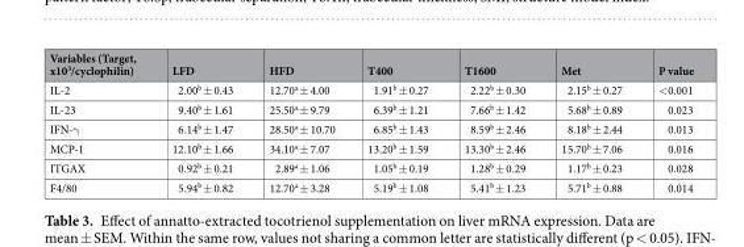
<table><thead><tr><td>Variables (Target, x10<sup>3</sup>/cyclophilin)</td><td>LFD</td><td>HFD</td><td>T400</td><td>T1600</td><td>Met</td><td>P value</td></tr></thead><tbody><tr><td>IL-2</td><td>2.00<sup>b</sup> ± 0.43</td><td>12.70<sup>a</sup> ± 4.00</td><td>1.91<sup>b</sup> ± 0.27</td><td>2.22<sup>b</sup> ± 0.30</td><td>2.15<sup>b</sup> ± 0.27</td><td>&lt;0.001</td></tr><tr><td>IL-23</td><td>9.40<sup>b</sup> ± 1.61</td><td>25.50<sup>a</sup> ± 9.79</td><td>6.39<sup>b</sup> ± 1.21</td><td>7.66<sup>b</sup> ± 1.42</td><td>5.68<sup>b</sup> ± 0.89</td><td>0.023</td></tr><tr><td>IFN-γ</td><td>6.14<sup>b</sup> ± 1.47</td><td>28.50<sup>a</sup> ± 10.70</td><td>6.85<sup>b</sup> ± 1.43</td><td>8.59<sup>b</sup> ± 2.46</td><td>8.18<sup>b</sup> ± 2.44</td><td>0.013</td></tr><tr><td>MCP-1</td><td>12.10<sup>b</sup> ± 1.66</td><td>34.10<sup>a</sup> ± 7.07</td><td>13.20<sup>b</sup> ± 1.59</td><td>13.30<sup>b</sup> ± 2.46</td><td>15.70<sup>b</sup> ± 7.06</td><td>0.016</td></tr><tr><td>ITGAX</td><td>0.92<sup>b</sup> ± 0.21</td><td>2.89<sup>a</sup> ± 1.06</td><td>1.05<sup>b</sup> ± 0.19</td><td>1.28<sup>b</sup> ± 0.29</td><td>1.17<sup>b</sup> ± 0.23</td><td>0.028</td></tr><tr><td>F4/80</td><td>5.94<sup>b</sup> ± 0.82</td><td>12.70<sup>a</sup> ± 3.28</td><td>5.19<sup>b</sup> ± 1.08</td><td>5.41<sup>b</sup> ± 1.23</td><td>5.71<sup>b</sup> ± 0.88</td><td>0.014</td></tr></tbody></table>